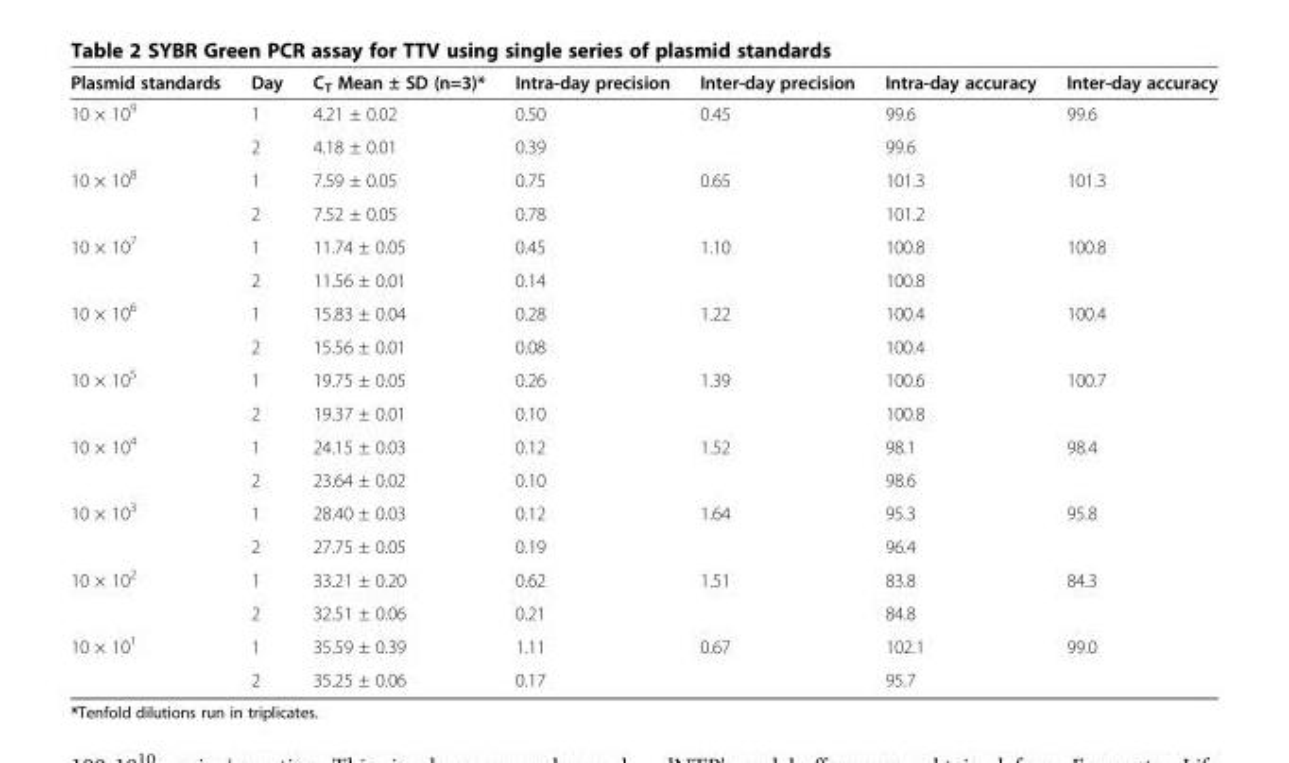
<table><thead><tr><td>Plasmid standards</td><td>Day</td><td>C<sub>T</sub> Mean ± SD (n=3)*</td><td>Intra-day precision</td><td>Inter-day precision</td><td>Intra-day accuracy</td><td>Inter-day accuracy</td></tr></thead><tbody><tr><td rowspan="2">10 × 10<sup>9</sup></td><td>1</td><td>4.21 ± 0.02</td><td>0.50</td><td>0.45</td><td>99.6</td><td>99.6</td></tr><tr><td>2</td><td>4.18 ± 0.01</td><td>0.39</td><td></td><td>99.6</td><td></td></tr><tr><td rowspan="2">10 × 10<sup>8</sup></td><td>1</td><td>7.59 ± 0.05</td><td>0.75</td><td>0.65</td><td>101.3</td><td>101.3</td></tr><tr><td>2</td><td>7.52 ± 0.05</td><td>0.78</td><td></td><td>101.2</td><td></td></tr><tr><td rowspan="2">10 × 10<sup>7</sup></td><td>1</td><td>11.74 ± 0.05</td><td>0.45</td><td>1.10</td><td>100.8</td><td>100.8</td></tr><tr><td>2</td><td>11.56 ± 0.01</td><td>0.14</td><td></td><td>100.8</td><td></td></tr><tr><td rowspan="2">10 × 10<sup>6</sup></td><td>1</td><td>15.83 ± 0.04</td><td>0.28</td><td>1.22</td><td>100.4</td><td>100.4</td></tr><tr><td>2</td><td>15.56 ± 0.01</td><td>0.08</td><td></td><td>100.4</td><td></td></tr><tr><td rowspan="2">10 × 10<sup>5</sup></td><td>1</td><td>19.75 ± 0.05</td><td>0.26</td><td>1.39</td><td>100.6</td><td>100.7</td></tr><tr><td>2</td><td>19.37 ± 0.01</td><td>0.10</td><td></td><td>100.8</td><td></td></tr><tr><td rowspan="2">10 × 10<sup>4</sup></td><td>1</td><td>24.15 ± 0.03</td><td>0.12</td><td>1.52</td><td>98.1</td><td>98.4</td></tr><tr><td>2</td><td>23.64 ± 0.02</td><td>0.10</td><td></td><td>98.6</td><td></td></tr><tr><td rowspan="2">10 × 10<sup>3</sup></td><td>1</td><td>28.40 ± 0.03</td><td>0.12</td><td>1.64</td><td>95.3</td><td>95.8</td></tr><tr><td>2</td><td>27.75 ± 0.05</td><td>0.19</td><td></td><td>96.4</td><td></td></tr><tr><td rowspan="2">10 × 10<sup>2</sup></td><td>1</td><td>33.21 ± 0.20</td><td>0.62</td><td>1.51</td><td>83.8</td><td>84.3</td></tr><tr><td>2</td><td>32.51 ± 0.06</td><td>0.21</td><td></td><td>84.8</td><td></td></tr><tr><td rowspan="2">10 × 10<sup>1</sup></td><td>1</td><td>35.59 ± 0.39</td><td>1.11</td><td>0.67</td><td>102.1</td><td>99.0</td></tr><tr><td>2</td><td>35.25 ± 0.06</td><td>0.17</td><td></td><td>95.7</td><td></td></tr></tbody></table>